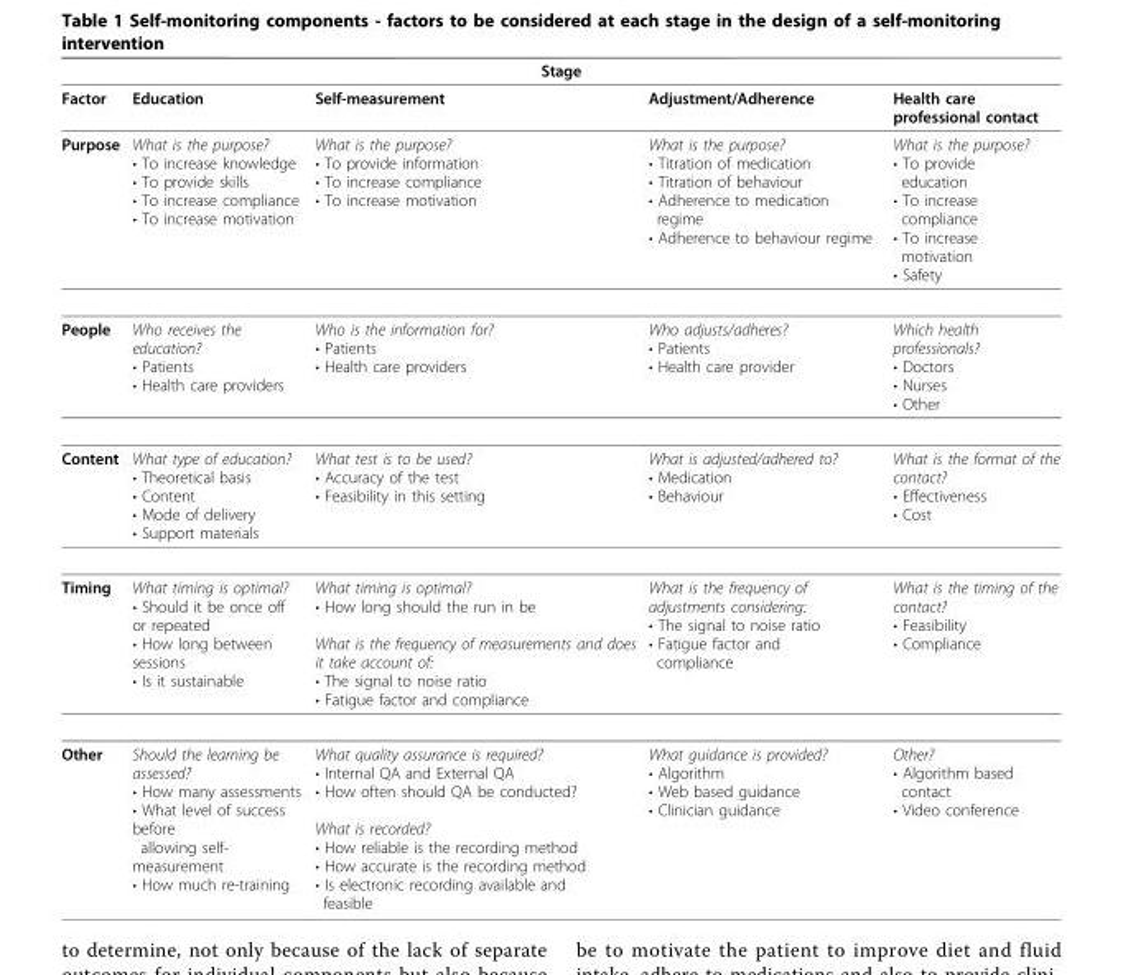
<table><thead><tr><td colspan="5">Stage</td></tr><tr><td>Factor</td><td>Education</td><td>Self-measurement</td><td>Adjustment/Adherence</td><td>Health care professional contact</td></tr></thead><tbody><tr><td>Purpose</td><td>What is the purpose? • To increase knowledge • To provide skills • To increase compliance • To increase motivation</td><td>What is the purpose? • To provide information • To increase compliance • To increase motivation</td><td>What is the purpose? • Titration of medication • Titration of behaviour • Adherence to medication regime • Adherence to behaviour regime</td><td>What is the purpose? • To provide education • To increase compliance • To increase motivation • Safety</td></tr><tr><td>People</td><td>Who receives the education? • Patients • Health care providers</td><td>Who is the information for? • Patients • Health care providers</td><td>Who adjusts/adheres? • Patients • Health care provider</td><td>Which health professionals? • Doctors • Nurses • Other</td></tr><tr><td>Content</td><td>What type of education? • Theoretical basis • Content • Mode of delivery • Support materials</td><td>What test is to be used? • Accuracy of the test • Feasibility in this setting</td><td>What is adjusted/adhered to? • Medication • Behaviour</td><td>What is the format of the contact? • Effectiveness • Cost</td></tr><tr><td>Timing</td><td>What timing is optimal? • Should it be once off or repeated • How long between sessions • Is it sustainable</td><td>What timing is optimal? • How long should the run in be What is the frequency of measurements and does it take account of: • The signal to noise ratio • Fatigue factor and compliance</td><td>What is the frequency of adjustments considering: • The signal to noise ratio • Fatigue factor and compliance</td><td>What is the timing of the contact? • Feasibility • Compliance</td></tr><tr><td>Other</td><td>Should the learning be assessed? • How many assessments • What level of success before allowing self- measurement • How much re-training</td><td>What quality assurance is required? • Internal QA and External QA • How often should QA be conducted? What is recorded? • How reliable is the recording method • How accurate is the recording method • Is electronic recording available and feasible</td><td>What guidance is provided? • Algorithm • Web based guidance • Clinician guidance</td><td>Other? • Algorithm based contact • Video conference</td></tr></tbody></table>